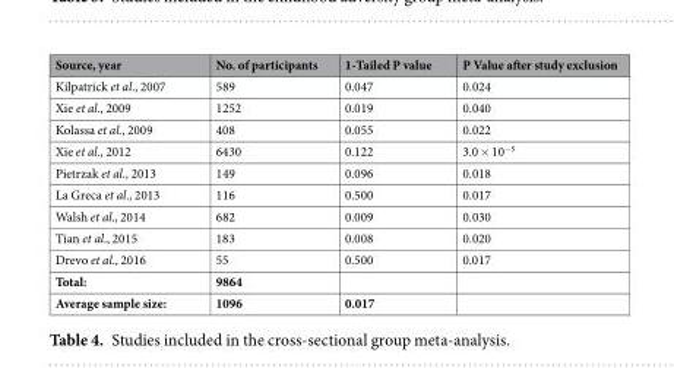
<table><thead><tr><td>Source, year</td><td>No. of participants</td><td>1-Tailed P value</td><td>P Value after study exclusion</td></tr></thead><tbody><tr><td>Kilpatrick et al., 2007</td><td>589</td><td>0.047</td><td>0.024</td></tr><tr><td>Xie et al., 2009</td><td>1252</td><td>0.019</td><td>0.040</td></tr><tr><td>Kolassa et al., 2009</td><td>408</td><td>0.055</td><td>0.022</td></tr><tr><td>Xie et al., 2012</td><td>6430</td><td>0.122</td><td>3.0 × 10<sup>−5</sup></td></tr><tr><td>Pietrzak et al., 2013</td><td>149</td><td>0.096</td><td>0.018</td></tr><tr><td>La Greca et al., 2013</td><td>116</td><td>0.500</td><td>0.017</td></tr><tr><td>Walsh et al., 2014</td><td>682</td><td>0.009</td><td>0.030</td></tr><tr><td>Tian et al., 2015</td><td>183</td><td>0.008</td><td>0.020</td></tr><tr><td>Drevo et al., 2016</td><td>55</td><td>0.500</td><td>0.017</td></tr><tr><td>Total:</td><td>9864</td><td></td><td></td></tr><tr><td>Average sample size:</td><td>1096</td><td>0.017</td><td></td></tr></tbody></table>